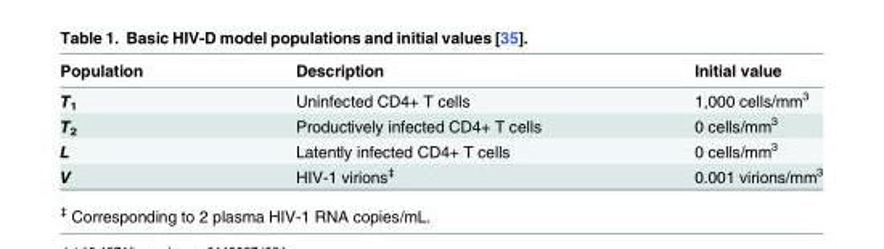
<table><thead><tr><td>Population</td><td>Description</td><td>Initial value</td></tr></thead><tbody><tr><td>T<sub>1</sub></td><td>Uninfected CD4+ T cells</td><td>1,000 cells/mm<sup>3</sup></td></tr><tr><td>T<sub>2</sub></td><td>Productively infected CD4+ T cells</td><td>0 cells/mm<sup>3</sup></td></tr><tr><td>L</td><td>Latently infected CD4+ T cells</td><td>0 cells/mm<sup>3</sup></td></tr><tr><td>V</td><td>HIV-1 virions<sup>‡</sup></td><td>0.001 virions/mm<sup>3</sup></td></tr></tbody></table>